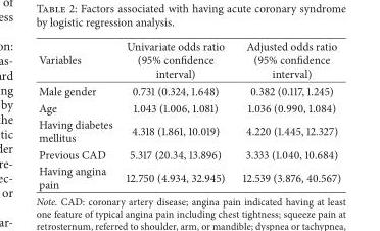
<table><thead><tr><td>Variables</td><td>Univariate odds ratio (95% confidence interval)</td><td>Adjusted odds ratio (95% confidence interval)</td></tr></thead><tbody><tr><td>Male gender</td><td>0.731 (0.324, 1.648)</td><td>0.382 (0.117, 1.245)</td></tr><tr><td>Age</td><td>1.043 (1.006, 1.081)</td><td>1.036 (0.990, 1.084)</td></tr><tr><td>Having diabetes mellitus</td><td>4.318 (1.861, 10.019)</td><td>4.220 (1.445, 12.327)</td></tr><tr><td>Previous CAD</td><td>5.317 (20.34, 13.896)</td><td>3.333 (1.040, 10.684)</td></tr><tr><td>Having angina pain</td><td>12.750 (4.934, 32.945)</td><td>12.539 (3.876, 40.567)</td></tr></tbody></table>